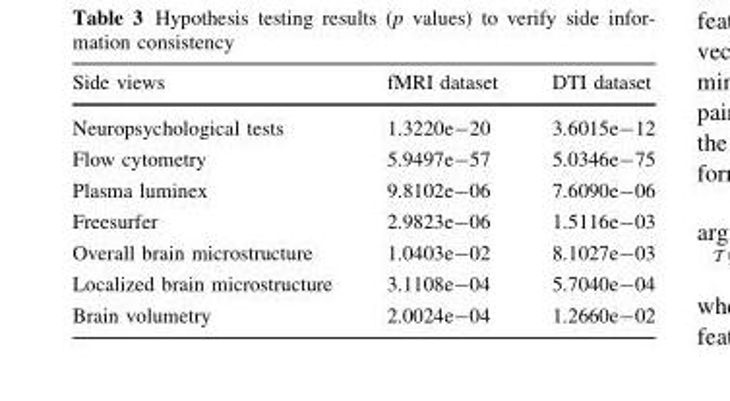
<table><thead><tr><td>Side views</td><td>fMRI dataset</td><td>DTI dataset</td></tr></thead><tbody><tr><td>Neuropsychological tests</td><td>1.3220e-20</td><td>3.6015e-12</td></tr><tr><td>Flow cytometry</td><td>5.9497e-57</td><td>5.0346e-75</td></tr><tr><td>Plasma luminex</td><td>9.8102e-06</td><td>7.6090e-06</td></tr><tr><td>Freesurfer</td><td>2.9823e-06</td><td>1.5116e-03</td></tr><tr><td>Overall brain microstructure</td><td>1.0403e-02</td><td>8.1027e-03</td></tr><tr><td>Localized brain microstructure</td><td>3.1108e-04</td><td>5.7040e-04</td></tr><tr><td>Brain volumetry</td><td>2.0024e-04</td><td>1.2660e-02</td></tr></tbody></table>